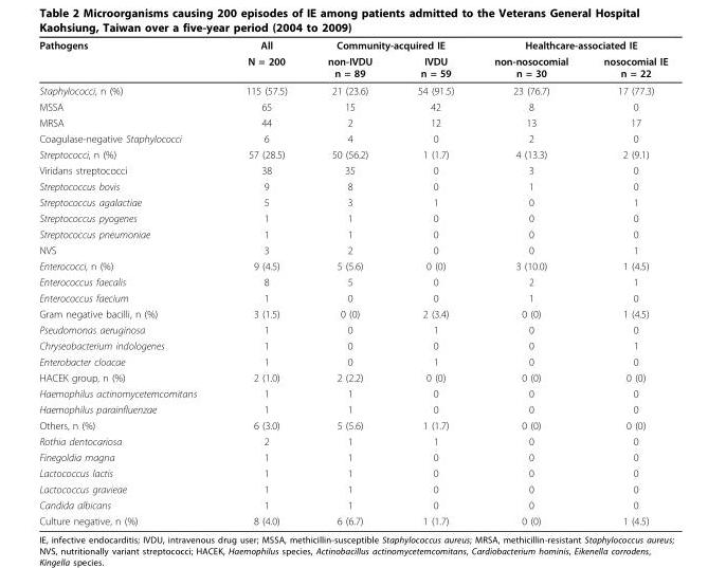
<table><thead><tr><td rowspan="2">Pathogens</td><td rowspan="2">All N = 200</td><td colspan="2">Community-acquired IE</td><td colspan="2">Healthcare-associated IE</td></tr><tr><td>non-IVDU n = 89</td><td>IVDU n = 59</td><td>non-nosocomial n = 30</td><td>nosocomial IE n = 22</td></tr></thead><tbody><tr><td>Staphylococci, n (%)</td><td>115 (57.5)</td><td>21 (23.6)</td><td>54 (91.5)</td><td>23 (76.7)</td><td>17 (77.3)</td></tr><tr><td>MSSA</td><td>65</td><td>15</td><td>42</td><td>8</td><td>0</td></tr><tr><td>MRSA</td><td>44</td><td>2</td><td>12</td><td>13</td><td>17</td></tr><tr><td>Coagulase-negative Staphylococci</td><td>6</td><td>4</td><td>0</td><td>2</td><td>0</td></tr><tr><td>Streptococci, n (%)</td><td>57 (28.5)</td><td>50 (56.2)</td><td>1 (1.7)</td><td>4 (13.3)</td><td>2 (9.1)</td></tr><tr><td>Viridans streptococci</td><td>38</td><td>35</td><td>0</td><td>3</td><td>0</td></tr><tr><td>Streptococcus bovis</td><td>9</td><td>8</td><td>0</td><td>1</td><td>0</td></tr><tr><td>Streptococcus agalactiae</td><td>5</td><td>3</td><td>1</td><td>0</td><td>1</td></tr><tr><td>Streptococcus pyogenes</td><td>1</td><td>1</td><td>0</td><td>0</td><td>0</td></tr><tr><td>Streptococcus pneumoniae</td><td>1</td><td>1</td><td>0</td><td>0</td><td>0</td></tr><tr><td>NVS</td><td>3</td><td>2</td><td>0</td><td>0</td><td>1</td></tr><tr><td>Enterococci, n (%)</td><td>9 (4.5)</td><td>5 (5.6)</td><td>0 (0)</td><td>3 (10.0)</td><td>1 (4.5)</td></tr><tr><td>Enterococcus faecalis</td><td>8</td><td>5</td><td>0</td><td>2</td><td>1</td></tr><tr><td>Enterococcus faecium</td><td>1</td><td>0</td><td>0</td><td>1</td><td>0</td></tr><tr><td>Gram negative bacilli, n (%)</td><td>3 (1.5)</td><td>0 (0)</td><td>2 (3.4)</td><td>0 (0)</td><td>1 (4.5)</td></tr><tr><td>Pseudomonas aeruginosa</td><td>1</td><td>0</td><td>1</td><td>0</td><td>0</td></tr><tr><td>Chryseobacterium indologenes</td><td>1</td><td>0</td><td>0</td><td>0</td><td>1</td></tr><tr><td>Enterobacter cloacae</td><td>1</td><td>0</td><td>1</td><td>0</td><td>0</td></tr><tr><td>HACEK group, n (%)</td><td>2 (1.0)</td><td>2 (2.2)</td><td>0 (0)</td><td>0 (0)</td><td>0 (0)</td></tr><tr><td>Haemophilus actinomycetemcomitans</td><td>1</td><td>1</td><td>0</td><td>0</td><td>0</td></tr><tr><td>Haemophilus parainfluenzae</td><td>1</td><td>1</td><td>0</td><td>0</td><td>0</td></tr><tr><td>Others, n (%)</td><td>6 (3.0)</td><td>5 (5.6)</td><td>1 (1.7)</td><td>0 (0)</td><td>0 (0)</td></tr><tr><td>Rothia dentocariosa</td><td>2</td><td>1</td><td>1</td><td>0</td><td>0</td></tr><tr><td>Finegoldia magna</td><td>1</td><td>1</td><td>0</td><td>0</td><td>0</td></tr><tr><td>Lactococcus lactis</td><td>1</td><td>1</td><td>0</td><td>0</td><td>0</td></tr><tr><td>Lactococcus gravieae</td><td>1</td><td>1</td><td>0</td><td>0</td><td>0</td></tr><tr><td>Candida albicans</td><td>1</td><td>1</td><td>0</td><td>0</td><td>0</td></tr><tr><td>Culture negative, n (%)</td><td>8 (4.0)</td><td>6 (6.7)</td><td>1 (1.7)</td><td>0 (0)</td><td>1 (4.5)</td></tr></tbody></table>